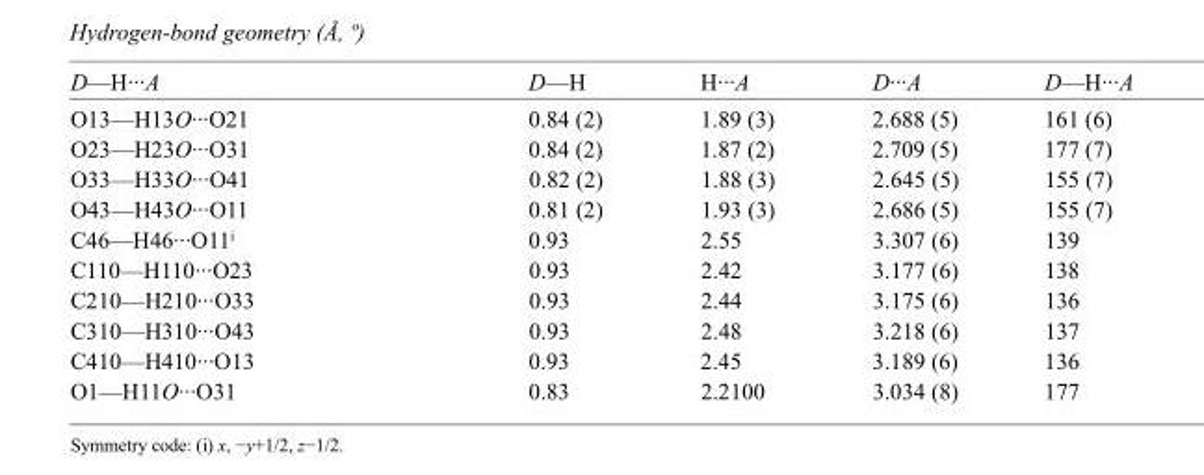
<table><tbody><tr><td>D—H···A</td><td>D—H</td><td>H···A</td><td>D···A</td><td>D—H···A</td></tr><tr><td>O13—H13O···O21</td><td>0.84 (2)</td><td>1.89 (3)</td><td>2.688 (5)</td><td>161 (6)</td></tr><tr><td>O23—H23O···O31</td><td>0.84 (2)</td><td>1.87 (2)</td><td>2.709 (5)</td><td>177 (7)</td></tr><tr><td>O33—H33O···O41</td><td>0.82 (2)</td><td>1.88 (3)</td><td>2.645 (5)</td><td>155 (7)</td></tr><tr><td>O43—H43O···O11</td><td>0.81 (2)</td><td>1.93 (3)</td><td>2.686 (5)</td><td>155 (7)</td></tr><tr><td>C46—H46···O11<sup>i</sup></td><td>0.93</td><td>2.55</td><td>3.307 (6)</td><td>139</td></tr><tr><td>C110—H110···O23</td><td>0.93</td><td>2.42</td><td>3.177 (6)</td><td>138</td></tr><tr><td>C210—H210···O33</td><td>0.93</td><td>2.44</td><td>3.175 (6)</td><td>136</td></tr><tr><td>C310—H310···O43</td><td>0.93</td><td>2.48</td><td>3.218 (6)</td><td>137</td></tr><tr><td>C410—H410···O13</td><td>0.93</td><td>2.45</td><td>3.189 (6)</td><td>136</td></tr><tr><td>O1—H11O···O31</td><td>0.83</td><td>2.2100</td><td>3.034 (8)</td><td>177</td></tr></tbody></table>